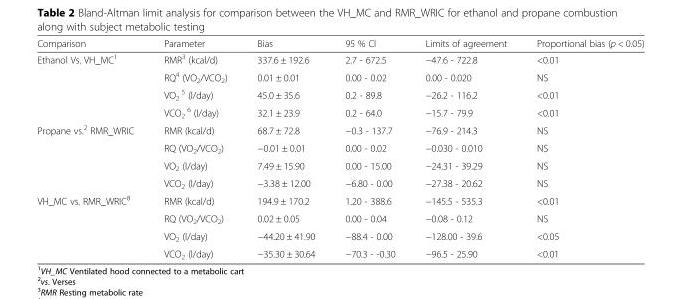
<table><thead><tr><td>Comparison</td><td>Parameter</td><td>Bias</td><td>95 % CI</td><td>Limits of agreement</td><td>Proportional bias (p &lt; 0.05)</td></tr></thead><tbody><tr><td rowspan="4">Ethanol Vs. VH_MC<sup>1</sup></td><td>RMR<sup>3</sup> (kcal/d)</td><td>337.6 ± 192.6</td><td>2.7 - 672.5</td><td>−47.6 - 722.8</td><td>&lt;0.01</td></tr><tr><td>RQ<sup>4</sup> (VO<sub>2</sub>/VCO<sub>2</sub>)</td><td>0.01 ± 0.01</td><td>0.00 - 0.02</td><td>0.00 - 0.020</td><td>NS</td></tr><tr><td>VO<sub>2</sub> <sup>5</sup> (l/day)</td><td>45.0 ± 35.6</td><td>0.2 - 89.8</td><td>−26.2 - 116.2</td><td>&lt;0.01</td></tr><tr><td>VCO<sub>2</sub> <sup>6</sup> (l/day)</td><td>32.1 ± 23.9</td><td>0.2 - 64.0</td><td>−15.7 - 79.9</td><td>&lt;0.01</td></tr><tr><td rowspan="4">Propane vs.<sup>2</sup> RMR_WRIC</td><td>RMR (kcal/d)</td><td>68.7 ± 72.8</td><td>−0.3 - 137.7</td><td>−76.9 - 214.3</td><td>NS</td></tr><tr><td>RQ (VO<sub>2</sub>/VCO<sub>2</sub>)</td><td>−0.01 ± 0.01</td><td>0.00 - 0.02</td><td>−0.030 - 0.010</td><td>NS</td></tr><tr><td>VO<sub>2</sub> (l/day)</td><td>7.49 ± 15.90</td><td>0.00 - 15.00</td><td>−24.31 - 39.29</td><td>NS</td></tr><tr><td>VCO<sub>2</sub> (l/day)</td><td>−3.38 ± 12.00</td><td>−6.80 - 0.00</td><td>−27.38 - 20.62</td><td>NS</td></tr><tr><td rowspan="4">VH_MC vs. RMR_WRIC<sup>8</sup></td><td>RMR (kcal/d)</td><td>194.9 ± 170.2</td><td>1.20 - 388.6</td><td>−145.5 - 535.3</td><td>&lt;0.01</td></tr><tr><td>RQ (VO<sub>2</sub>/VCO<sub>2</sub>)</td><td>0.02 ± 0.05</td><td>0.00 - 0.04</td><td>−0.08 - 0.12</td><td>NS</td></tr><tr><td>VO<sub>2</sub> (l/day)</td><td>−44.20 ± 41.90</td><td>−88.4 - 0.00</td><td>−128.00 - 39.6</td><td>&lt;0.05</td></tr><tr><td>VCO<sub>2</sub> (l/day)</td><td>−35.30 ± 30.64</td><td>−70.3 - -0.30</td><td>−96.5 - 25.90</td><td>&lt;0.01</td></tr></tbody></table>